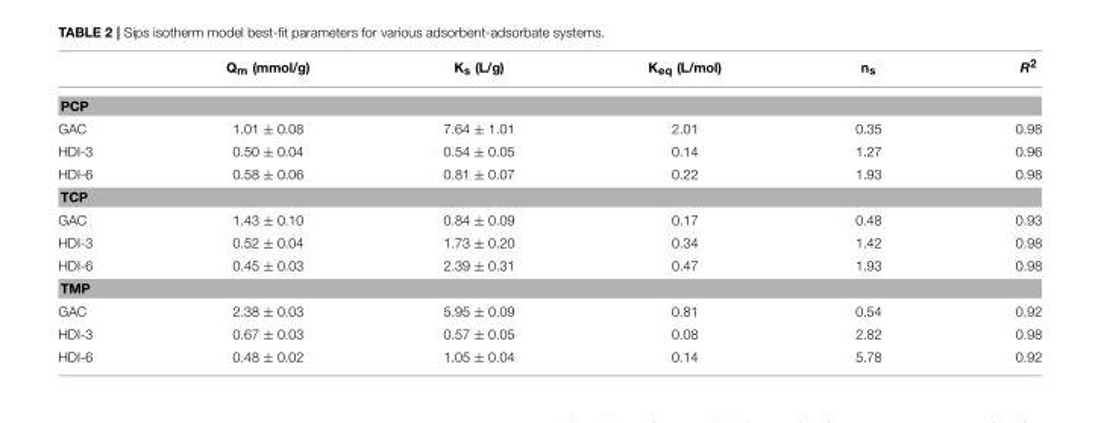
<table><thead><tr><td></td><td>Q<sub>m</sub> (mmol/g)</td><td>K<sub>s</sub> (L/g)</td><td>K<sub>eq</sub> (L/mol)</td><td>n<sub>s</sub></td><td>R<sup>2</sup></td></tr></thead><tbody><tr><td colspan="6">PCP</td></tr><tr><td>GAC</td><td>1.01 ± 0.08</td><td>7.64 ± 1.01</td><td>2.01</td><td>0.35</td><td>0.98</td></tr><tr><td>HDI-3</td><td>0.50 ± 0.04</td><td>0.54 ± 0.05</td><td>0.14</td><td>1.27</td><td>0.96</td></tr><tr><td>HDI-6</td><td>0.58 ± 0.06</td><td>0.81 ± 0.07</td><td>0.22</td><td>1.93</td><td>0.98</td></tr><tr><td colspan="6">TCP</td></tr><tr><td>GAC</td><td>1.43 ± 0.10</td><td>0.84 ± 0.09</td><td>0.17</td><td>0.48</td><td>0.93</td></tr><tr><td>HDI-3</td><td>0.52 ± 0.04</td><td>1.73 ± 0.20</td><td>0.34</td><td>1.42</td><td>0.98</td></tr><tr><td>HDI-6</td><td>0.45 ± 0.03</td><td>2.39 ± 0.31</td><td>0.47</td><td>1.93</td><td>0.98</td></tr><tr><td colspan="6">TMP</td></tr><tr><td>GAC</td><td>2.38 ± 0.03</td><td>5.95 ± 0.09</td><td>0.81</td><td>0.54</td><td>0.92</td></tr><tr><td>HDI-3</td><td>0.67 ± 0.03</td><td>0.57 ± 0.05</td><td>0.08</td><td>2.82</td><td>0.98</td></tr><tr><td>HDI-6</td><td>0.48 ± 0.02</td><td>1.05 ± 0.04</td><td>0.14</td><td>5.78</td><td>0.92</td></tr></tbody></table>